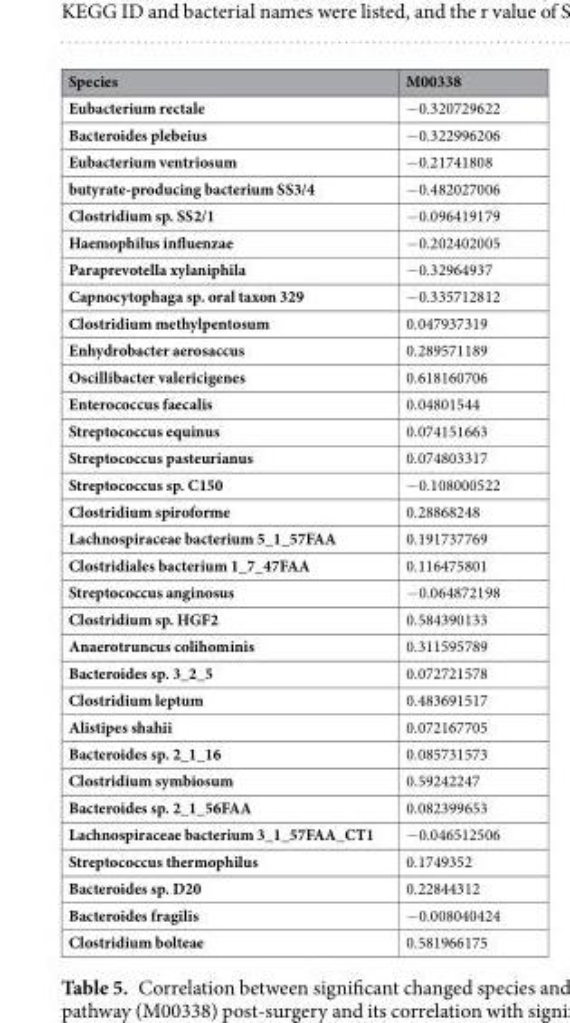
<table><thead><tr><td>Species</td><td>M00338</td></tr></thead><tbody><tr><td>Eubacterium rectale</td><td>−0.320729622</td></tr><tr><td>Bacteroides plebeius</td><td>−0.322996206</td></tr><tr><td>Eubacterium ventriosum</td><td>−0.21741808</td></tr><tr><td>butyrate-producing bacterium SS3/4</td><td>−0.482027006</td></tr><tr><td>Clostridium sp. SS2/1</td><td>−0.096419179</td></tr><tr><td>Haemophilus influenzae</td><td>−0.202402005</td></tr><tr><td>Paraprevotella xylaniphila</td><td>−0.32964937</td></tr><tr><td>Capnocytophaga sp. oral taxon 329</td><td>−0.335712812</td></tr><tr><td>Clostridium methylpentosum</td><td>0.047937319</td></tr><tr><td>Enhydrobacter aerosaccus</td><td>0.289571189</td></tr><tr><td>Oscillibacter valericigenes</td><td>0.618160706</td></tr><tr><td>Enterococcus faecalis</td><td>0.04801544</td></tr><tr><td>Streptococcus equinus</td><td>0.074151663</td></tr><tr><td>Streptococcus pasteurianus</td><td>0.074803317</td></tr><tr><td>Streptococcus sp. C150</td><td>−0.108000522</td></tr><tr><td>Clostridium spiroforme</td><td>0.28868248</td></tr><tr><td>Lachnospiraceae bacterium 5_1_57FAA</td><td>0.191737769</td></tr><tr><td>Clostridiales bacterium 1_7_47FAA</td><td>0.116475801</td></tr><tr><td>Streptococcus anginosus</td><td>−0.064872198</td></tr><tr><td>Clostridium sp. HGF2</td><td>0.584390133</td></tr><tr><td>Anaerotruncus colihominis</td><td>0.311595789</td></tr><tr><td>Bacteroides sp. 3_2_5</td><td>0.072721578</td></tr><tr><td>Clostridium leptum</td><td>0.483691517</td></tr><tr><td>Alistipes shahii</td><td>0.072167705</td></tr><tr><td>Bacteroides sp. 2_1_16</td><td>0.085731573</td></tr><tr><td>Clostridium symbiosum</td><td>0.59242247</td></tr><tr><td>Bacteroides sp. 2_1_56FAA</td><td>0.082399653</td></tr><tr><td>Lachnospiraceae bacterium 3_1_57FAA_CT1</td><td>−0.046512506</td></tr><tr><td>Streptococcus thermophilus</td><td>0.1749352</td></tr><tr><td>Bacteroides sp. D20</td><td>0.22844312</td></tr><tr><td>Bacteroides fragilis</td><td>−0.008040424</td></tr><tr><td>Clostridium bolteae</td><td>0.581966175</td></tr></tbody></table>